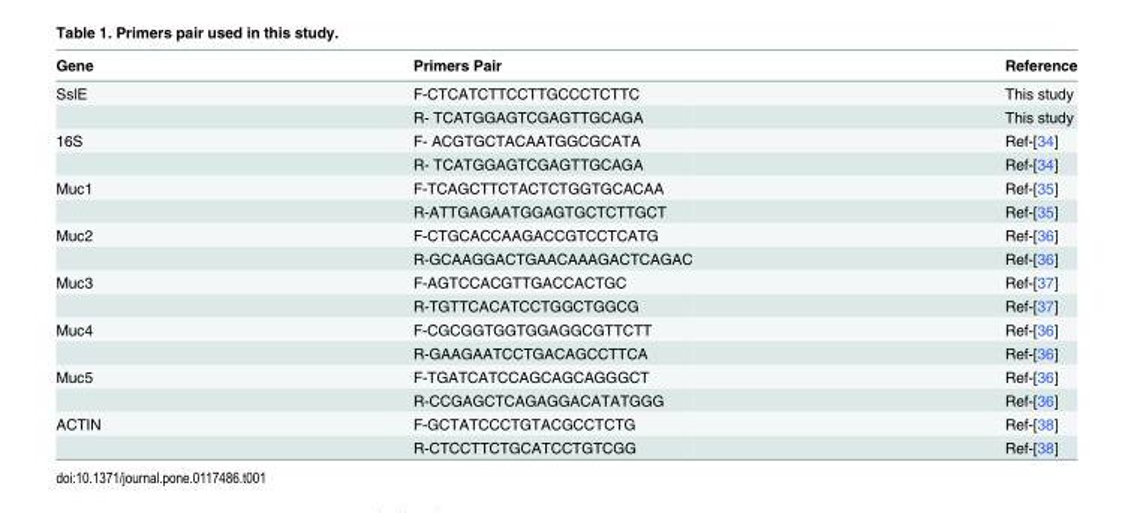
<table><thead><tr><td>Gene</td><td>Primers Pair</td><td>Reference</td></tr></thead><tbody><tr><td rowspan="2">SslE</td><td>F-CTCATCTTCCTTGCCCTCTTC</td><td>This study</td></tr><tr><td>R- TCATGGAGTCGAGTTGCAGA</td><td>This study</td></tr><tr><td rowspan="2">16S</td><td>F- ACGTGCTACAATGGCGCATA</td><td>Ref-[34]</td></tr><tr><td>R- TCATGGAGTCGAGTTGCAGA</td><td>Ref-[34]</td></tr><tr><td rowspan="2">Muc1</td><td>F-TCAGCTTCTACTCTGGTGCACAA</td><td>Ref-[35]</td></tr><tr><td>R-ATTGAGAATGGAGTGCTCTTGCT</td><td>Ref-[35]</td></tr><tr><td rowspan="2">Muc2</td><td>F-CTGCACCAAGACCGTCCTCATG</td><td>Ref-[36]</td></tr><tr><td>R-GCAAGGACTGAACAAAGACTCAGAC</td><td>Ref-[36]</td></tr><tr><td rowspan="2">Muc3</td><td>F-AGTCCACGTTGACCACTGC</td><td>Ref-[37]</td></tr><tr><td>R-TGTTCACATCCTGGCTGGCG</td><td>Ref-[37]</td></tr><tr><td rowspan="2">Muc4</td><td>F-CGCGGTGGTGGAGGCGTTCTT</td><td>Ref-[36]</td></tr><tr><td>R-GAAGAATCCTGACAGCCTTCA</td><td>Ref-[36]</td></tr><tr><td rowspan="2">Muc5</td><td>F-TGATCATCCAGCAGCAGGGCT</td><td>Ref-[36]</td></tr><tr><td>R-CCGAGCTCAGAGGACATATGGG</td><td>Ref-[36]</td></tr><tr><td rowspan="2">ACTIN</td><td>F-GCTATCCCTGTACGCCTCTG</td><td>Ref-[38]</td></tr><tr><td>R-CTCCTTCTGCATCCTGTCGG</td><td>Ref-[38]</td></tr></tbody></table>